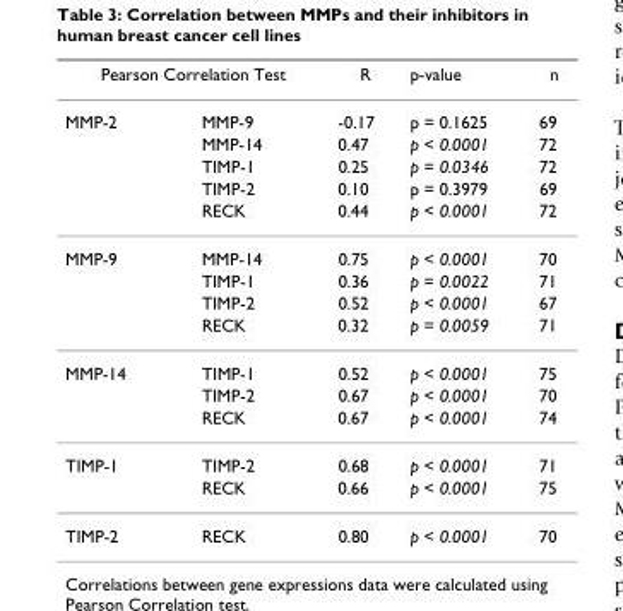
<table><thead><tr><td colspan="2">Pearson Correlation Test</td><td rowspan="2">R -0.17</td><td rowspan="2">p-value p = 0.1625</td><td rowspan="2">n 69</td></tr><tr><td>MMP-2</td><td>MMP-9</td></tr></thead><tbody><tr><td></td><td>MMP-14</td><td>0.47</td><td>p &lt; 0.0001</td><td>72</td></tr><tr><td></td><td>TIMP-1</td><td>0.25</td><td>p = 0.0346</td><td>72</td></tr><tr><td></td><td>TIMP-2</td><td>0.10</td><td>p = 0.3979</td><td>69</td></tr><tr><td></td><td>RECK</td><td>0.44</td><td>p &lt; 0.0001</td><td>72</td></tr><tr><td rowspan="4">MMP-9</td><td>MMP-14</td><td>0.75</td><td>p &lt; 0.0001</td><td>70</td></tr><tr><td>TIMP-1</td><td>0.36</td><td>p = 0.0022</td><td>71</td></tr><tr><td>TIMP-2</td><td>0.52</td><td>p &lt; 0.0001</td><td>67</td></tr><tr><td>RECK</td><td>0.32</td><td>p = 0.0059</td><td>71</td></tr><tr><td rowspan="3">MMP-14</td><td>TIMP-1</td><td>0.52</td><td>p &lt; 0.0001</td><td>75</td></tr><tr><td>TIMP-2</td><td>0.67</td><td>p &lt; 0.0001</td><td>70</td></tr><tr><td>RECK</td><td>0.67</td><td>p &lt; 0.0001</td><td>74</td></tr><tr><td rowspan="2">TIMP-1</td><td>TIMP-2</td><td>0.68</td><td>p &lt; 0.0001</td><td>71</td></tr><tr><td>RECK</td><td>0.66</td><td>p &lt; 0.0001</td><td>75</td></tr><tr><td>TIMP-2</td><td>RECK</td><td>0.80</td><td>p &lt; 0.0001</td><td>70</td></tr></tbody></table>